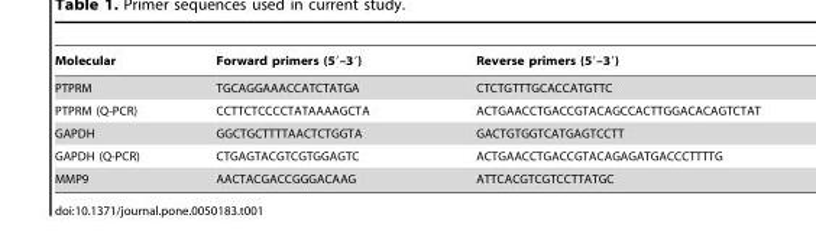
<table><thead><tr><td>Molecular</td><td>Forward primers (5′–3′)</td><td>Reverse primers (5′–3′)</td></tr></thead><tbody><tr><td>PTPRM</td><td>TGCAGGAAACCATCTATGA</td><td>CTCTGTTTGCACCATGTTC</td></tr><tr><td>PTPRM (Q-PCR)</td><td>CCTTCTCCCCTATAAAAGCTA</td><td>ACTGAACCTGACCGTACAGCCACTTGGACACAGTCTAT</td></tr><tr><td>GAPDH</td><td>GGCTGCTTTTAACTCTGGTA</td><td>GACTGTGGTCATGAGTCCTT</td></tr><tr><td>GAPDH (Q-PCR)</td><td>CTGAGTACGTCGTGGAGTC</td><td>ACTGAACCTGACCGTACAGAGATGACCCTTTTG</td></tr><tr><td>MMP9</td><td>AACTACGACCGGGACAAG</td><td>ATTCACGTCGTCCTTATGC</td></tr></tbody></table>